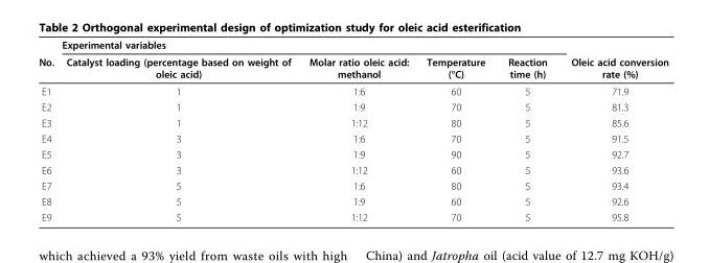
<table><thead><tr><td rowspan="2">No.</td><td rowspan="2">Experimental variables Catalyst loading (percentage based on weight of oleic acid)</td><td rowspan="2">Molar ratio oleic acid: methanol</td><td rowspan="2">Temperature (°C)</td><td rowspan="2">Reaction time (h)</td><td rowspan="2">Oleic acid conversion rate (%)</td></tr><tr></tr></thead><tbody><tr><td>E1</td><td>1</td><td>1:6</td><td>60</td><td>5</td><td>71.9</td></tr><tr><td>E2</td><td>1</td><td>1:9</td><td>70</td><td>5</td><td>81.3</td></tr><tr><td>E3</td><td>1</td><td>1:12</td><td>80</td><td>5</td><td>85.6</td></tr><tr><td>E4</td><td>3</td><td>1:6</td><td>70</td><td>5</td><td>91.5</td></tr><tr><td>E5</td><td>3</td><td>1:9</td><td>90</td><td>5</td><td>92.7</td></tr><tr><td>E6</td><td>3</td><td>1:12</td><td>60</td><td>5</td><td>93.6</td></tr><tr><td>E7</td><td>5</td><td>1:6</td><td>80</td><td>5</td><td>93.4</td></tr><tr><td>E8</td><td>5</td><td>1:9</td><td>60</td><td>5</td><td>92.6</td></tr><tr><td>E9</td><td>5</td><td>1:12</td><td>70</td><td>5</td><td>95.8</td></tr></tbody></table>